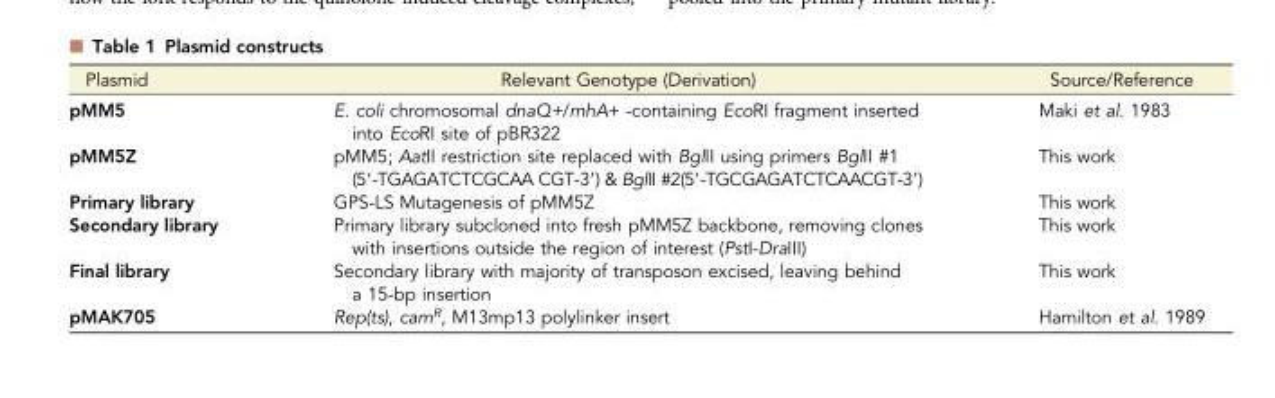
<table><thead><tr><td>Plasmid</td><td>Relevant Genotype (Derivation)</td><td>Source/Reference</td></tr></thead><tbody><tr><td>pMM5</td><td>E. coli chromosomal dnaQ+/rnhA+ -containing EcoRI fragment inserted into EcoRI site of pBR322</td><td>Maki et al. 1983</td></tr><tr><td>pMM5Z</td><td>pMM5; AatII restriction site replaced with BglII using primers BglII #1 (5′-TGAGATCTCGCAA CGT-3′) &amp; BglII #2(5′-TGCGAGATCTCAACGT-3′)</td><td>This work</td></tr><tr><td>Primary library</td><td>GPS-LS Mutagenesis of pMM5Z</td><td>This work</td></tr><tr><td>Secondary library</td><td>Primary library subcloned into fresh pMM5Z backbone, removing clones with insertions outside the region of interest (PstI-DraIII)</td><td>This work</td></tr><tr><td>Final library</td><td>Secondary library with majority of transposon excised, leaving behind a 15-bp insertion</td><td>This work</td></tr><tr><td>pMAK705</td><td>Rep(ts), cam<sup>R</sup>, M13mp13 polylinker insert</td><td>Hamilton et al. 1989</td></tr></tbody></table>